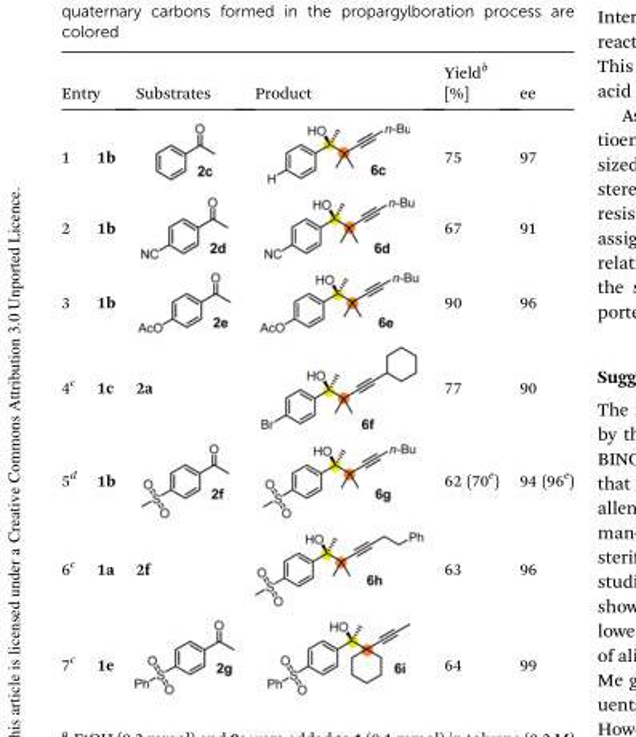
<table><thead><tr><td colspan="2">Entry</td><td rowspan="2">Substrates</td><td rowspan="2">Product</td><td rowspan="2">Yield<sup>b</sup> [%] 75</td><td rowspan="2">ee 97</td></tr><tr><td>1</td><td>1b</td></tr></thead><tbody><tr><td>2</td><td>1b</td><td></td><td></td><td>67</td><td>91</td></tr><tr><td>3</td><td>1b</td><td></td><td></td><td>90</td><td>96</td></tr><tr><td>4<sup>c</sup></td><td>1c</td><td>2a</td><td></td><td>77</td><td>90</td></tr><tr><td>5<sup>d</sup></td><td>1b</td><td></td><td></td><td>62 (70<sup>e</sup>)</td><td>94 (96<sup>e</sup>)</td></tr><tr><td>6<sup>c</sup></td><td>1a</td><td>2f</td><td></td><td>63</td><td>96</td></tr><tr><td>7<sup>c</sup></td><td>1e</td><td></td><td></td><td>64</td><td>99</td></tr></tbody></table>